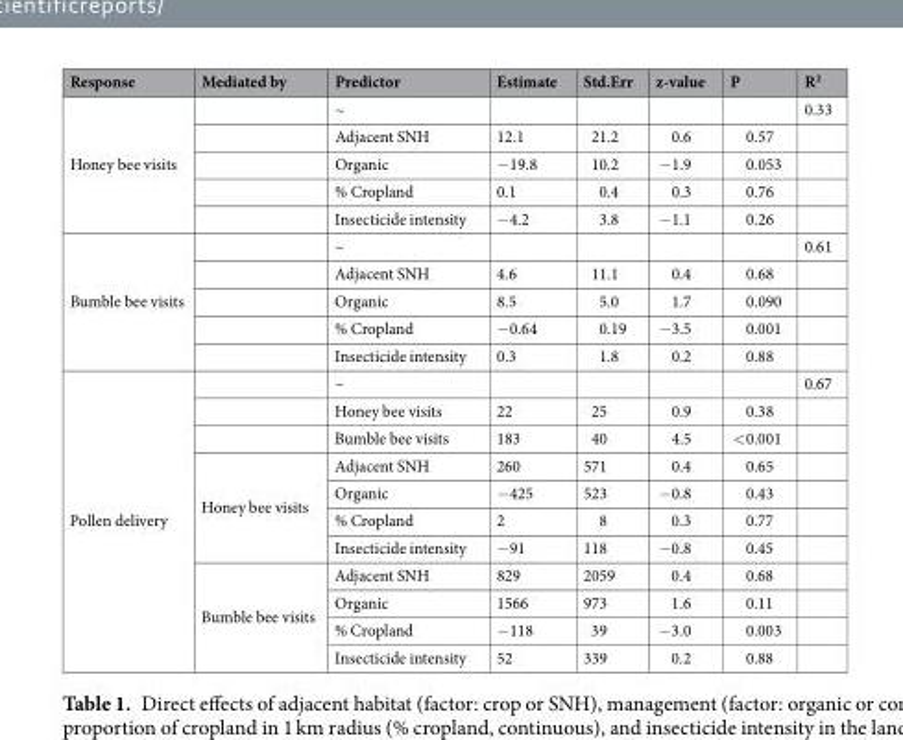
<table><thead><tr><td>Response</td><td>Mediated by</td><td>Predictor</td><td>Estimate</td><td>Std.Err</td><td>z-value</td><td>P</td><td>R<sup>2</sup></td></tr></thead><tbody><tr><td rowspan="5">Honey bee visits</td><td></td><td>~</td><td></td><td></td><td></td><td></td><td>0.33</td></tr><tr><td></td><td>Adjacent SNH</td><td>12.1</td><td>21.2</td><td>0.6</td><td>0.57</td><td></td></tr><tr><td></td><td>Organic</td><td>−19.8</td><td>10.2</td><td>−1.9</td><td>0.053</td><td></td></tr><tr><td></td><td>% Cropland</td><td>0.1</td><td>0.4</td><td>0.3</td><td>0.76</td><td></td></tr><tr><td></td><td>Insecticide intensity</td><td>−4.2</td><td>3.8</td><td>−1.1</td><td>0.26</td><td></td></tr><tr><td rowspan="5">Bumble bee visits</td><td></td><td>~</td><td></td><td></td><td></td><td></td><td>0.61</td></tr><tr><td></td><td>Adjacent SNH</td><td>4.6</td><td>11.1</td><td>0.4</td><td>0.68</td><td></td></tr><tr><td></td><td>Organic</td><td>8.5</td><td>5.0</td><td>1.7</td><td>0.090</td><td></td></tr><tr><td></td><td>% Cropland</td><td>−0.64</td><td>0.19</td><td>−3.5</td><td>0.001</td><td></td></tr><tr><td></td><td>Insecticide intensity</td><td>0.3</td><td>1.8</td><td>0.2</td><td>0.88</td><td></td></tr><tr><td rowspan="11">Pollen delivery</td><td></td><td>~</td><td></td><td></td><td></td><td></td><td>0.67</td></tr><tr><td></td><td>Honey bee visits</td><td>22</td><td>25</td><td>0.9</td><td>0.38</td><td></td></tr><tr><td></td><td>Bumble bee visits</td><td>183</td><td>40</td><td>4.5</td><td>&lt;0.001</td><td></td></tr><tr><td rowspan="4">Honey bee visits</td><td>Adjacent SNH</td><td>260</td><td>571</td><td>0.4</td><td>0.65</td><td></td></tr><tr><td>Organic</td><td>−425</td><td>523</td><td>−0.8</td><td>0.43</td><td></td></tr><tr><td>% Cropland</td><td>2</td><td>8</td><td>0.3</td><td>0.77</td><td></td></tr><tr><td>Insecticide intensity</td><td>−91</td><td>118</td><td>−0.8</td><td>0.45</td><td></td></tr><tr><td rowspan="4">Bumble bee visits</td><td>Adjacent SNH</td><td>829</td><td>2059</td><td>0.4</td><td>0.68</td><td></td></tr><tr><td>Organic</td><td>1566</td><td>973</td><td>1.6</td><td>0.11</td><td></td></tr><tr><td>% Cropland</td><td>−118</td><td>39</td><td>−3.0</td><td>0.003</td><td></td></tr><tr><td>Insecticide intensity</td><td>52</td><td>339</td><td>0.2</td><td>0.88</td><td></td></tr></tbody></table>